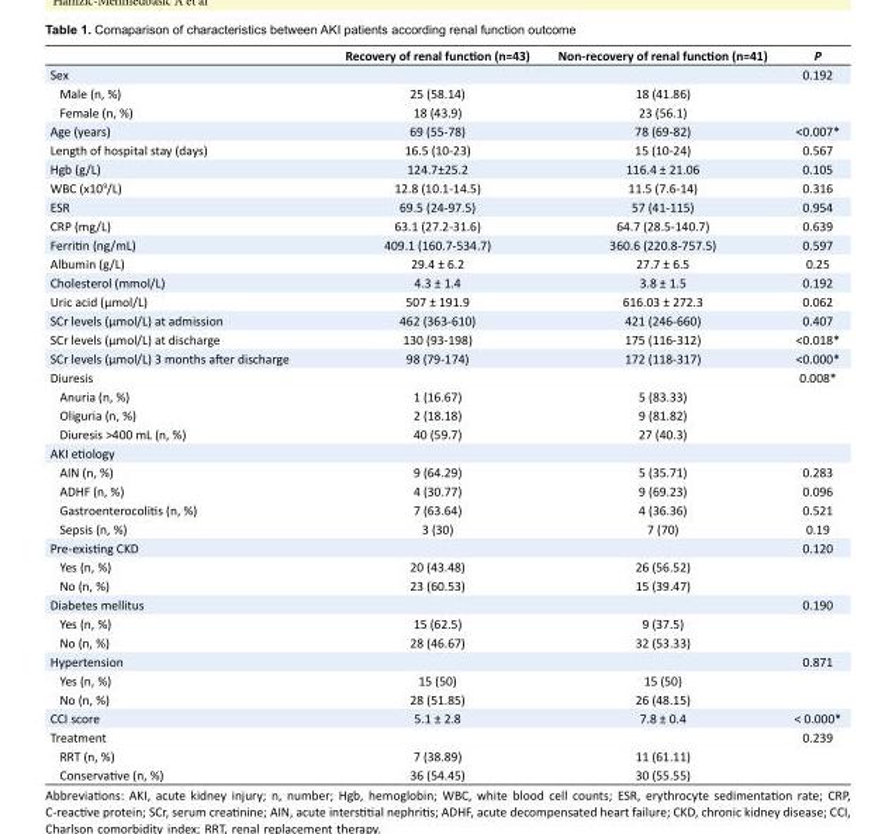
<table><thead><tr><td></td><td>Recovery of renal function (n=43)</td><td>Non-recovery of renal function (n=41)</td><td>P</td></tr></thead><tbody><tr><td>Sex</td><td></td><td></td><td>0.192</td></tr><tr><td>Male (n, %)</td><td>25 (58.14)</td><td>18 (41.86)</td><td></td></tr><tr><td>Female (n, %)</td><td>18 (43.9)</td><td>23 (56.1)</td><td></td></tr><tr><td>Age (years)</td><td>69 (55-78)</td><td>78 (69-82)</td><td>&lt;0.007*</td></tr><tr><td>Length of hospital stay (days)</td><td>16.5 (10-23)</td><td>15 (10-24)</td><td>0.567</td></tr><tr><td>Hgb (g/L)</td><td>124.7±25.2</td><td>116.4 ± 21.06</td><td>0.105</td></tr><tr><td>WBC (x10<sup>9</sup>/L)</td><td>12.8 (10.1-14.5)</td><td>11.5 (7.6-14)</td><td>0.316</td></tr><tr><td>ESR</td><td>69.5 (24-97.5)</td><td>57 (41-115)</td><td>0.954</td></tr><tr><td>CRP (mg/L)</td><td>63.1 (27.2-31.6)</td><td>64.7 (28.5-140.7)</td><td>0.639</td></tr><tr><td>Ferritin (ng/mL)</td><td>409.1 (160.7-534.7)</td><td>360.6 (220.8-757.5)</td><td>0.597</td></tr><tr><td>Albumin (g/L)</td><td>29.4 ± 6.2</td><td>27.7 ± 6.5</td><td>0.25</td></tr><tr><td>Cholesterol (mmol/L)</td><td>4.3 ± 1.4</td><td>3.8 ± 1.5</td><td>0.192</td></tr><tr><td>Uric acid (μmol/L)</td><td>507 ± 191.9</td><td>616.03 ± 272.3</td><td>0.062</td></tr><tr><td>SCr levels (μmol/L) at admission</td><td>462 (363-610)</td><td>421 (246-660)</td><td>0.407</td></tr><tr><td>SCr levels (μmol/L) at discharge</td><td>130 (93-198)</td><td>175 (116-312)</td><td>&lt;0.018*</td></tr><tr><td>SCr levels (μmol/L) 3 months after discharge</td><td>98 (79-174)</td><td>172 (118-317)</td><td>&lt;0.000*</td></tr><tr><td>Diuresis</td><td></td><td></td><td>0.008*</td></tr><tr><td>Anuria (n, %)</td><td>1 (16.67)</td><td>5 (83.33)</td><td></td></tr><tr><td>Oliguria (n, %)</td><td>2 (18.18)</td><td>9 (81.82)</td><td></td></tr><tr><td>Diuresis &gt;400 mL (n, %)</td><td>40 (59.7)</td><td>27 (40.3)</td><td></td></tr><tr><td colspan="4">AKI etiology</td></tr><tr><td>AIN (n, %)</td><td>9 (64.29)</td><td>5 (35.71)</td><td>0.283</td></tr><tr><td>ADHF (n, %)</td><td>4 (30.77)</td><td>9 (69.23)</td><td>0.096</td></tr><tr><td>Gastroenterocolitis (n, %)</td><td>7 (63.64)</td><td>4 (36.36)</td><td>0.521</td></tr><tr><td>Sepsis (n, %)</td><td>3 (30)</td><td>7 (70)</td><td>0.19</td></tr><tr><td>Pre-existing CKD</td><td></td><td></td><td>0.120</td></tr><tr><td>Yes (n, %)</td><td>20 (43.48)</td><td>26 (56.52)</td><td></td></tr><tr><td>No (n, %)</td><td>23 (60.53)</td><td>15 (39.47)</td><td></td></tr><tr><td>Diabetes mellitus</td><td></td><td></td><td>0.190</td></tr><tr><td>Yes (n, %)</td><td>15 (62.5)</td><td>9 (37.5)</td><td></td></tr><tr><td>No (n, %)</td><td>28 (46.67)</td><td>32 (53.33)</td><td></td></tr><tr><td>Hypertension</td><td></td><td></td><td>0.871</td></tr><tr><td>Yes (n, %)</td><td>15 (50)</td><td>15 (50)</td><td></td></tr><tr><td>No (n, %)</td><td>28 (51.85)</td><td>26 (48.15)</td><td></td></tr><tr><td>CCI score</td><td>5.1 ± 2.8</td><td>7.8 ± 0.4</td><td>&lt; 0.000*</td></tr><tr><td>Treatment</td><td></td><td></td><td>0.239</td></tr><tr><td>RRT (n, %)</td><td>7 (38.89)</td><td>11 (61.11)</td><td></td></tr><tr><td>Conservative (n, %)</td><td>36 (54.45)</td><td>30 (55.55)</td><td></td></tr></tbody></table>